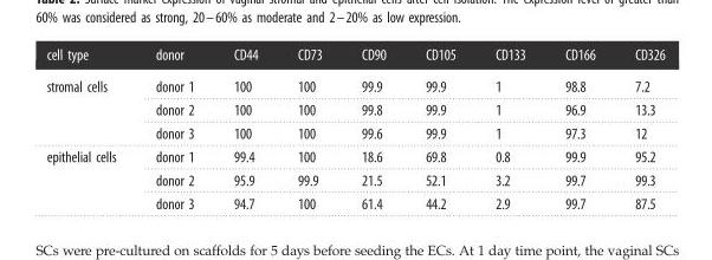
<table><thead><tr><td>cell type</td><td>donor</td><td>CD44</td><td>CD73</td><td>CD90</td><td>CD105</td><td>CD133</td><td>CD166</td><td>CD326</td></tr></thead><tbody><tr><td rowspan="3">stromal cells</td><td>donor 1</td><td>100</td><td>100</td><td>99.9</td><td>99.9</td><td>1</td><td>98.8</td><td>7.2</td></tr><tr><td>donor 2</td><td>100</td><td>100</td><td>99.8</td><td>99.9</td><td>1</td><td>96.9</td><td>13.3</td></tr><tr><td>donor 3</td><td>100</td><td>100</td><td>99.6</td><td>99.9</td><td>1</td><td>97.3</td><td>12</td></tr><tr><td rowspan="3">epithelial cells</td><td>donor 1</td><td>99.4</td><td>100</td><td>18.6</td><td>69.8</td><td>0.8</td><td>99.9</td><td>95.2</td></tr><tr><td>donor 2</td><td>95.9</td><td>99.9</td><td>21.5</td><td>52.1</td><td>3.2</td><td>99.7</td><td>99.3</td></tr><tr><td>donor 3</td><td>94.7</td><td>100</td><td>61.4</td><td>44.2</td><td>2.9</td><td>99.7</td><td>87.5</td></tr></tbody></table>